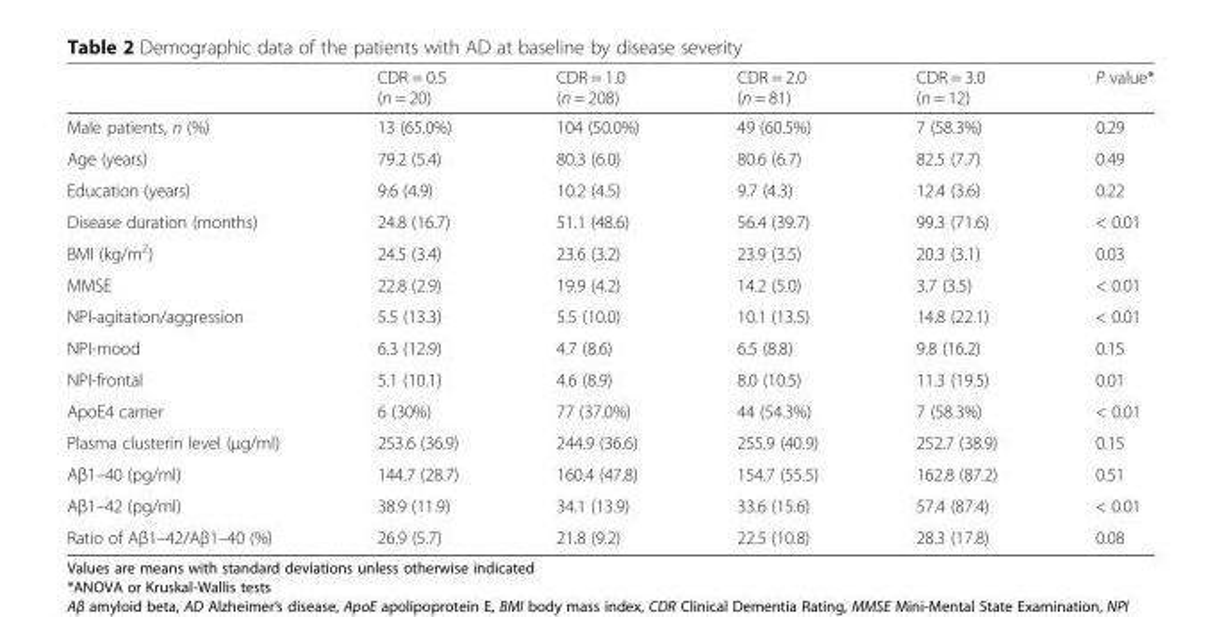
<table><thead><tr><td></td><td>CDR = 0.5 (n = 20)</td><td>CDR = 1.0 (n = 208)</td><td>CDR = 2.0 (n = 81)</td><td>CDR = 3.0 (n = 12)</td><td>P value*</td></tr></thead><tbody><tr><td>Male patients, n (%)</td><td>13 (65.0%)</td><td>104 (50.0%)</td><td>49 (60.5%)</td><td>7 (58.3%)</td><td>0.29</td></tr><tr><td>Age (years)</td><td>79.2 (5.4)</td><td>80.3 (6.0)</td><td>80.6 (6.7)</td><td>82.5 (7.7)</td><td>0.49</td></tr><tr><td>Education (years)</td><td>9.6 (4.9)</td><td>10.2 (4.5)</td><td>9.7 (4.3)</td><td>12.4 (3.6)</td><td>0.22</td></tr><tr><td>Disease duration (months)</td><td>24.8 (16.7)</td><td>51.1 (48.6)</td><td>56.4 (39.7)</td><td>99.3 (71.6)</td><td>&lt; 0.01</td></tr><tr><td>BMI (kg/m<sup>2</sup>)</td><td>24.5 (3.4)</td><td>23.6 (3.2)</td><td>23.9 (3.5)</td><td>20.3 (3.1)</td><td>0.03</td></tr><tr><td>MMSE</td><td>22.8 (2.9)</td><td>19.9 (4.2)</td><td>14.2 (5.0)</td><td>3.7 (3.5)</td><td>&lt; 0.01</td></tr><tr><td>NPI-agitation/aggression</td><td>5.5 (13.3)</td><td>5.5 (10.0)</td><td>10.1 (13.5)</td><td>14.8 (22.1)</td><td>&lt; 0.01</td></tr><tr><td>NPI-mood</td><td>6.3 (12.9)</td><td>4.7 (8.6)</td><td>6.5 (8.8)</td><td>9.8 (16.2)</td><td>0.15</td></tr><tr><td>NPI-frontal</td><td>5.1 (10.1)</td><td>4.6 (8.9)</td><td>8.0 (10.5)</td><td>11.3 (19.5)</td><td>0.01</td></tr><tr><td>ApoE4 carrier</td><td>6 (30%)</td><td>77 (37.0%)</td><td>44 (54.3%)</td><td>7 (58.3%)</td><td>&lt; 0.01</td></tr><tr><td>Plasma clusterin level (μg/ml)</td><td>253.6 (36.9)</td><td>244.9 (36.6)</td><td>255.9 (40.9)</td><td>252.7 (38.9)</td><td>0.15</td></tr><tr><td>Aβ1–40 (pg/ml)</td><td>144.7 (28.7)</td><td>160.4 (47.8)</td><td>154.7 (55.5)</td><td>162.8 (87.2)</td><td>0.51</td></tr><tr><td>Aβ1–42 (pg/ml)</td><td>38.9 (11.9)</td><td>34.1 (13.9)</td><td>33.6 (15.6)</td><td>57.4 (87.4)</td><td>&lt; 0.01</td></tr><tr><td>Ratio of Aβ1–42/Aβ1–40 (%)</td><td>26.9 (5.7)</td><td>21.8 (9.2)</td><td>22.5 (10.8)</td><td>28.3 (17.8)</td><td>0.08</td></tr></tbody></table>